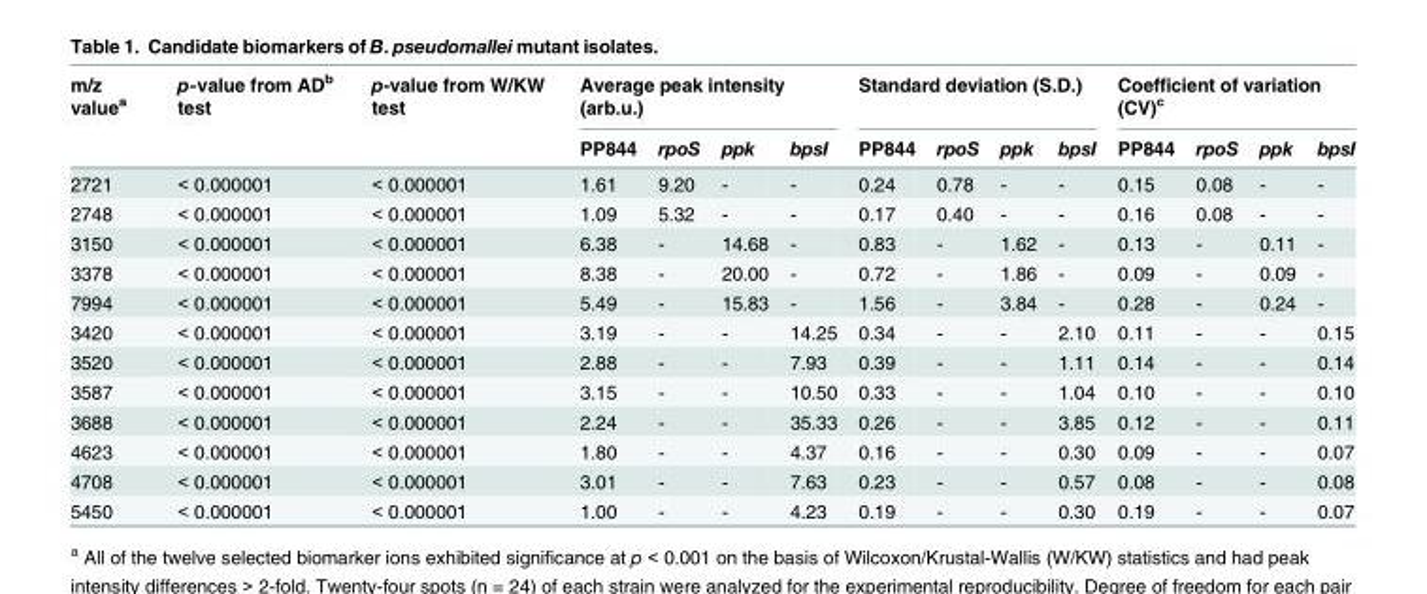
<table><thead><tr><td rowspan="2">m/z value<sup>a</sup></td><td rowspan="2">p-value from AD<sup>b</sup> test</td><td rowspan="2">p-value from W/KW test</td><td colspan="4">Average peak intensity (arb.u.)</td><td colspan="4">Standard deviation (S.D.)</td><td colspan="4">Coefficient of variation (CV)<sup>c</sup></td></tr><tr><td>PP844</td><td>rpoS</td><td>ppk</td><td>bpsI</td><td>PP844</td><td>rpoS</td><td>ppk</td><td>bpsI</td><td>PP844</td><td>rpoS</td><td>ppk</td><td>bpsI</td></tr></thead><tbody><tr><td>2721</td><td>&lt; 0.000001</td><td>&lt; 0.000001</td><td>1.61</td><td>9.20</td><td>-</td><td>-</td><td>0.24</td><td>0.78</td><td>-</td><td>-</td><td>0.15</td><td>0.08</td><td>-</td><td>-</td></tr><tr><td>2748</td><td>&lt; 0.000001</td><td>&lt; 0.000001</td><td>1.09</td><td>5.32</td><td>-</td><td>-</td><td>0.17</td><td>0.40</td><td>-</td><td>-</td><td>0.16</td><td>0.08</td><td>-</td><td>-</td></tr><tr><td>3150</td><td>&lt; 0.000001</td><td>&lt; 0.000001</td><td>6.38</td><td>-</td><td>14.68</td><td>-</td><td>0.83</td><td>-</td><td>1.62</td><td>-</td><td>0.13</td><td>-</td><td>0.11</td><td>-</td></tr><tr><td>3378</td><td>&lt; 0.000001</td><td>&lt; 0.000001</td><td>8.38</td><td>-</td><td>20.00</td><td>-</td><td>0.72</td><td>-</td><td>1.86</td><td>-</td><td>0.09</td><td>-</td><td>0.09</td><td>-</td></tr><tr><td>7994</td><td>&lt; 0.000001</td><td>&lt; 0.000001</td><td>5.49</td><td>-</td><td>15.83</td><td>-</td><td>1.56</td><td>-</td><td>3.84</td><td>-</td><td>0.28</td><td>-</td><td>0.24</td><td>-</td></tr><tr><td>3420</td><td>&lt; 0.000001</td><td>&lt; 0.000001</td><td>3.19</td><td>-</td><td>-</td><td>14.25</td><td>0.34</td><td>-</td><td>-</td><td>2.10</td><td>0.11</td><td>-</td><td>-</td><td>0.15</td></tr><tr><td>3520</td><td>&lt; 0.000001</td><td>&lt; 0.000001</td><td>2.88</td><td>-</td><td>-</td><td>7.93</td><td>0.39</td><td>-</td><td>-</td><td>1.11</td><td>0.14</td><td>-</td><td>-</td><td>0.14</td></tr><tr><td>3587</td><td>&lt; 0.000001</td><td>&lt; 0.000001</td><td>3.15</td><td>-</td><td>-</td><td>10.50</td><td>0.33</td><td>-</td><td>-</td><td>1.04</td><td>0.10</td><td>-</td><td>-</td><td>0.10</td></tr><tr><td>3688</td><td>&lt; 0.000001</td><td>&lt; 0.000001</td><td>2.24</td><td>-</td><td>-</td><td>35.33</td><td>0.26</td><td>-</td><td>-</td><td>3.85</td><td>0.12</td><td>-</td><td>-</td><td>0.11</td></tr><tr><td>4623</td><td>&lt; 0.000001</td><td>&lt; 0.000001</td><td>1.80</td><td>-</td><td>-</td><td>4.37</td><td>0.16</td><td>-</td><td>-</td><td>0.30</td><td>0.09</td><td>-</td><td>-</td><td>0.07</td></tr><tr><td>4708</td><td>&lt; 0.000001</td><td>&lt; 0.000001</td><td>3.01</td><td>-</td><td>-</td><td>7.63</td><td>0.23</td><td>-</td><td>-</td><td>0.57</td><td>0.08</td><td>-</td><td>-</td><td>0.08</td></tr><tr><td>5450</td><td>&lt; 0.000001</td><td>&lt; 0.000001</td><td>1.00</td><td>-</td><td>-</td><td>4.23</td><td>0.19</td><td>-</td><td>-</td><td>0.30</td><td>0.19</td><td>-</td><td>-</td><td>0.07</td></tr></tbody></table>